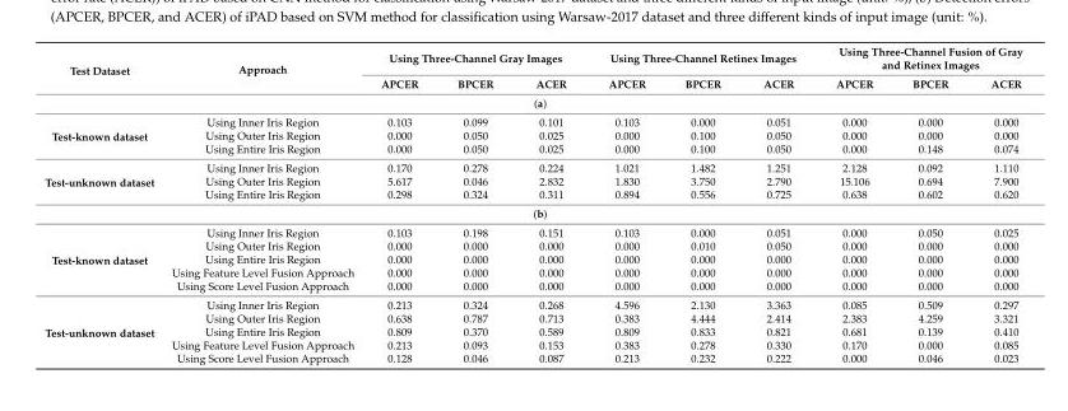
<table><thead><tr><td rowspan="2">Test Dataset</td><td rowspan="2">Approach</td><td colspan="3">Using Three-Channel Gray Images</td><td colspan="3">Using Three-Channel Retinex Images</td><td colspan="3">Using Three-Channel Fusion of Gray and Retinex Images</td></tr><tr><td>APCER</td><td>BPCER</td><td>ACER</td><td>APCER</td><td>BPCER</td><td>ACER</td><td>APCER</td><td>BPCER</td><td>ACER</td></tr></thead><tbody><tr><td colspan="11">(a)</td></tr><tr><td rowspan="3">Test-known dataset</td><td>Using Inner Iris Region</td><td>0.103</td><td>0.099</td><td>0.101</td><td>0.103</td><td>0.000</td><td>0.051</td><td>0.000</td><td>0.000</td><td>0.000</td></tr><tr><td>Using Outer Iris Region</td><td>0.000</td><td>0.050</td><td>0.025</td><td>0.000</td><td>0.100</td><td>0.050</td><td>0.000</td><td>0.000</td><td>0.000</td></tr><tr><td>Using Entire Iris Region</td><td>0.000</td><td>0.050</td><td>0.025</td><td>0.000</td><td>0.100</td><td>0.050</td><td>0.000</td><td>0.148</td><td>0.074</td></tr><tr><td rowspan="3">Test-unknown dataset</td><td>Using Inner Iris Region</td><td>0.170</td><td>0.278</td><td>0.224</td><td>1.021</td><td>1.482</td><td>1.251</td><td>2.128</td><td>0.092</td><td>1.110</td></tr><tr><td>Using Outer Iris Region</td><td>5.617</td><td>0.046</td><td>2.832</td><td>1.830</td><td>3.750</td><td>2.790</td><td>15.106</td><td>0.694</td><td>7.900</td></tr><tr><td>Using Entire Iris Region</td><td>0.298</td><td>0.324</td><td>0.311</td><td>0.894</td><td>0.556</td><td>0.725</td><td>0.638</td><td>0.602</td><td>0.620</td></tr><tr><td colspan="11">(b)</td></tr><tr><td rowspan="5">Test-known dataset</td><td>Using Inner Iris Region</td><td>0.103</td><td>0.198</td><td>0.151</td><td>0.103</td><td>0.000</td><td>0.051</td><td>0.000</td><td>0.050</td><td>0.025</td></tr><tr><td>Using Outer Iris Region</td><td>0.000</td><td>0.000</td><td>0.000</td><td>0.000</td><td>0.010</td><td>0.050</td><td>0.000</td><td>0.000</td><td>0.000</td></tr><tr><td>Using Entire Iris Region</td><td>0.000</td><td>0.000</td><td>0.000</td><td>0.000</td><td>0.000</td><td>0.000</td><td>0.000</td><td>0.000</td><td>0.000</td></tr><tr><td>Using Feature Level Fusion Approach</td><td>0.000</td><td>0.000</td><td>0.000</td><td>0.000</td><td>0.000</td><td>0.000</td><td>0.000</td><td>0.000</td><td>0.000</td></tr><tr><td>Using Score Level Fusion Approach</td><td>0.000</td><td>0.000</td><td>0.000</td><td>0.000</td><td>0.000</td><td>0.000</td><td>0.000</td><td>0.000</td><td>0.000</td></tr><tr><td rowspan="5">Test-unknown dataset</td><td>Using Inner Iris Region</td><td>0.213</td><td>0.324</td><td>0.268</td><td>4.596</td><td>2.130</td><td>3.363</td><td>0.085</td><td>0.509</td><td>0.297</td></tr><tr><td>Using Outer Iris Region</td><td>0.638</td><td>0.787</td><td>0.713</td><td>0.383</td><td>4.444</td><td>2.414</td><td>2.383</td><td>4.259</td><td>3.321</td></tr><tr><td>Using Entire Iris Region</td><td>0.809</td><td>0.370</td><td>0.589</td><td>0.809</td><td>0.833</td><td>0.821</td><td>0.681</td><td>0.139</td><td>0.410</td></tr><tr><td>Using Feature Level Fusion Approach</td><td>0.213</td><td>0.093</td><td>0.153</td><td>0.383</td><td>0.278</td><td>0.330</td><td>0.170</td><td>0.000</td><td>0.085</td></tr><tr><td>Using Score Level Fusion Approach</td><td>0.128</td><td>0.046</td><td>0.087</td><td>0.213</td><td>0.232</td><td>0.222</td><td>0.000</td><td>0.046</td><td>0.023</td></tr></tbody></table>